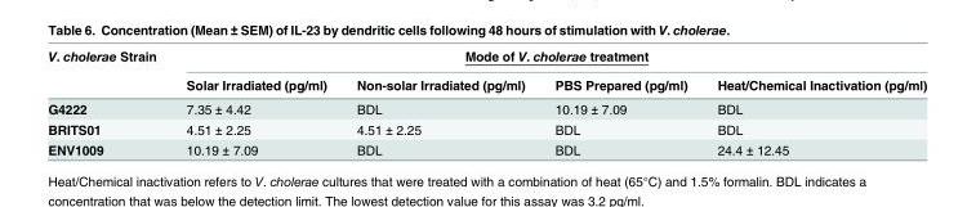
<table><thead><tr><td rowspan="2">V. cholerae Strain</td><td colspan="4">Mode of V. cholerae treatment</td></tr><tr><td>Solar Irradiated (pg/ml)</td><td>Non-solar Irradiated (pg/ml)</td><td>PBS Prepared (pg/ml)</td><td>Heat/Chemical Inactivation (pg/ml)</td></tr></thead><tbody><tr><td>G4222</td><td>7.35 ± 4.42</td><td>BDL</td><td>10.19 ± 7.09</td><td>BDL</td></tr><tr><td>BRITS01</td><td>4.51 ± 2.25</td><td>4.51 ± 2.25</td><td>BDL</td><td>BDL</td></tr><tr><td>ENV1009</td><td>10.19 ± 7.09</td><td>BDL</td><td>BDL</td><td>24.4 ± 12.45</td></tr></tbody></table>